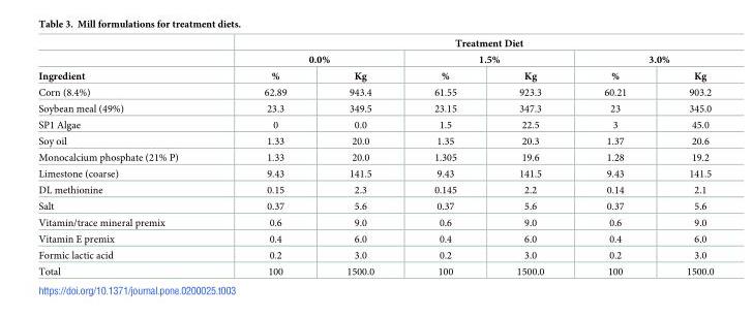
<table><thead><tr><td rowspan="3">Ingredient</td><td colspan="6">Treatment Diet</td></tr><tr><td colspan="2">0.0%</td><td colspan="2">1.5%</td><td colspan="2">3.0%</td></tr><tr><td>%</td><td>Kg</td><td>%</td><td>Kg</td><td>%</td><td>Kg</td></tr></thead><tbody><tr><td>Corn (8.4%)</td><td>62.89</td><td>943.4</td><td>61.55</td><td>923.3</td><td>60.21</td><td>903.2</td></tr><tr><td>Soybean meal (49%)</td><td>23.3</td><td>349.5</td><td>23.15</td><td>347.3</td><td>23</td><td>345.0</td></tr><tr><td>SP1 Algae</td><td>0</td><td>0.0</td><td>1.5</td><td>22.5</td><td>3</td><td>45.0</td></tr><tr><td>Soy oil</td><td>1.33</td><td>20.0</td><td>1.35</td><td>20.3</td><td>1.37</td><td>20.6</td></tr><tr><td>Monocalcium phosphate (21% P)</td><td>1.33</td><td>20.0</td><td>1.305</td><td>19.6</td><td>1.28</td><td>19.2</td></tr><tr><td>Limestone (coarse)</td><td>9.43</td><td>141.5</td><td>9.43</td><td>141.5</td><td>9.43</td><td>141.5</td></tr><tr><td>DL methionine</td><td>0.15</td><td>2.3</td><td>0.145</td><td>2.2</td><td>0.14</td><td>2.1</td></tr><tr><td>Salt</td><td>0.37</td><td>5.6</td><td>0.37</td><td>5.6</td><td>0.37</td><td>5.6</td></tr><tr><td>Vitamin/trace mineral premix</td><td>0.6</td><td>9.0</td><td>0.6</td><td>9.0</td><td>0.6</td><td>9.0</td></tr><tr><td>Vitamin E premix</td><td>0.4</td><td>6.0</td><td>0.4</td><td>6.0</td><td>0.4</td><td>6.0</td></tr><tr><td>Formic lactic acid</td><td>0.2</td><td>3.0</td><td>0.2</td><td>3.0</td><td>0.2</td><td>3.0</td></tr><tr><td>Total</td><td>100</td><td>1500.0</td><td>100</td><td>1500.0</td><td>100</td><td>1500.0</td></tr></tbody></table>